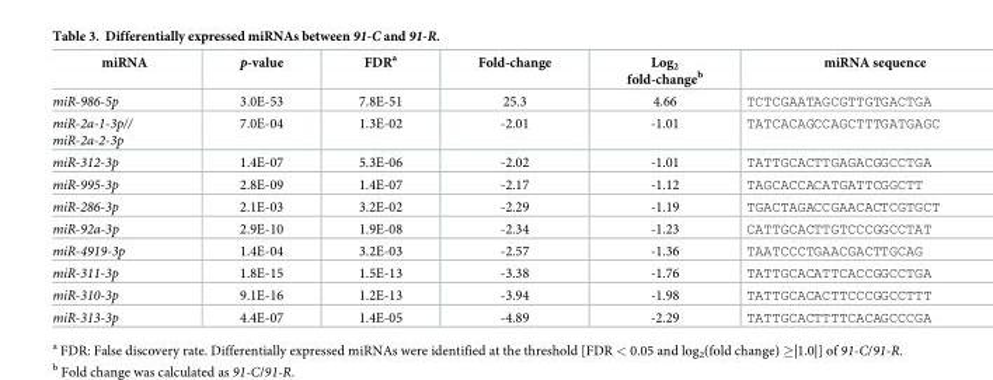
<table><thead><tr><td>miRNA</td><td>p-value</td><td>FDR<sup>a</sup></td><td>Fold-change</td><td>Log<sub>2</sub> fold-change<sup>b</sup></td><td>miRNA sequence</td></tr></thead><tbody><tr><td>miR-986-5p</td><td>3.0E-53</td><td>7.8E-51</td><td>25.3</td><td>4.66</td><td>TCTCGAATAGCGTTGTGACTGA</td></tr><tr><td>miR-2a-1-3p// miR-2a-2-3p</td><td>7.0E-04</td><td>1.3E-02</td><td>-2.01</td><td>-1.01</td><td>TATCACAGCCAGCTTTGATGAGC</td></tr><tr><td>miR-312-3p</td><td>1.4E-07</td><td>5.3E-06</td><td>-2.02</td><td>-1.01</td><td>TATTGCACTTGAGACGGCCTGA</td></tr><tr><td>miR-995-3p</td><td>2.8E-09</td><td>1.4E-07</td><td>-2.17</td><td>-1.12</td><td>TAGCACCACATGATTCGGCTT</td></tr><tr><td>miR-286-3p</td><td>2.1E-03</td><td>3.2E-02</td><td>-2.29</td><td>-1.19</td><td>TGACTAGACCGAACACTCGTGCT</td></tr><tr><td>miR-92a-3p</td><td>2.9E-10</td><td>1.9E-08</td><td>-2.34</td><td>-1.23</td><td>CATTGCACTTGTCCCGGCCTAT</td></tr><tr><td>miR-4919-3p</td><td>1.4E-04</td><td>3.2E-03</td><td>-2.57</td><td>-1.36</td><td>TAATCCCTGAACGACTTGCAG</td></tr><tr><td>miR-311-3p</td><td>1.8E-15</td><td>1.5E-13</td><td>-3.38</td><td>-1.76</td><td>TATTGCACATTCACCGGCCTGA</td></tr><tr><td>miR-310-3p</td><td>9.1E-16</td><td>1.2E-13</td><td>-3.94</td><td>-1.98</td><td>TATTGCACACTTCCCGGCCTTT</td></tr><tr><td>miR-313-3p</td><td>4.4E-07</td><td>1.4E-05</td><td>-4.89</td><td>-2.29</td><td>TATTGCACTTTTCACAGCCCGA</td></tr></tbody></table>